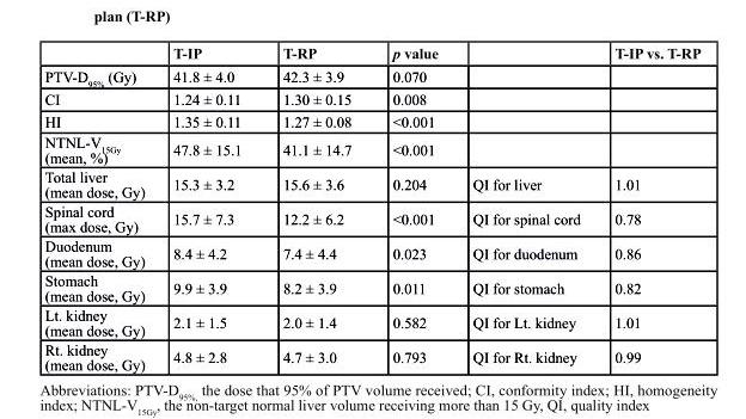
<table><thead><tr><td></td><td>t-IP</td><td>t-rP</td><td>p value</td><td></td><td>t-IP vs. t-rP</td></tr></thead><tbody><tr><td>PTV-D<sub>95%</sub> (Gy)</td><td>41.8 ± 4.0</td><td>42.3 ± 3.9</td><td>0.070</td><td></td><td></td></tr><tr><td>CI</td><td>1.24 ± 0.11</td><td>1.30 ± 0.15</td><td>0.008</td><td></td><td></td></tr><tr><td>HI</td><td>1.35 ± 0.11</td><td>1.27 ± 0.08</td><td>&lt;0.001</td><td></td><td></td></tr><tr><td>NTNL-V<sub>15Gy</sub> (mean, %)</td><td>47.8 ± 15.1</td><td>41.1 ± 14.7</td><td>&lt;0.001</td><td></td><td></td></tr><tr><td>Total liver (mean dose, Gy)</td><td>15.3 ± 3.2</td><td>15.6 ± 3.6</td><td>0.204</td><td>QI for liver</td><td>1.01</td></tr><tr><td>Spinal cord (max dose, Gy)</td><td>15.7 ± 7.3</td><td>12.2 ± 6.2</td><td>&lt;0.001</td><td>QI for spinal cord</td><td>0.78</td></tr><tr><td>Duodenum (mean dose, Gy)</td><td>8.4 ± 4.2</td><td>7.4 ± 4.4</td><td>0.023</td><td>QI for duodenum</td><td>0.86</td></tr><tr><td>Stomach (mean dose, Gy)</td><td>9.9 ± 3.9</td><td>8.2 ± 3.9</td><td>0.011</td><td>QI for stomach</td><td>0.82</td></tr><tr><td>Lt. kidney (mean dose, Gy)</td><td>2.1 ± 1.5</td><td>2.0 ± 1.4</td><td>0.582</td><td>QI for Lt. kidney</td><td>1.01</td></tr><tr><td>Rt. kidney (mean dose, Gy)</td><td>4.8 ± 2.8</td><td>4.7 ± 3.0</td><td>0.793</td><td>QI for Rt. kidney</td><td>0.99</td></tr></tbody></table>